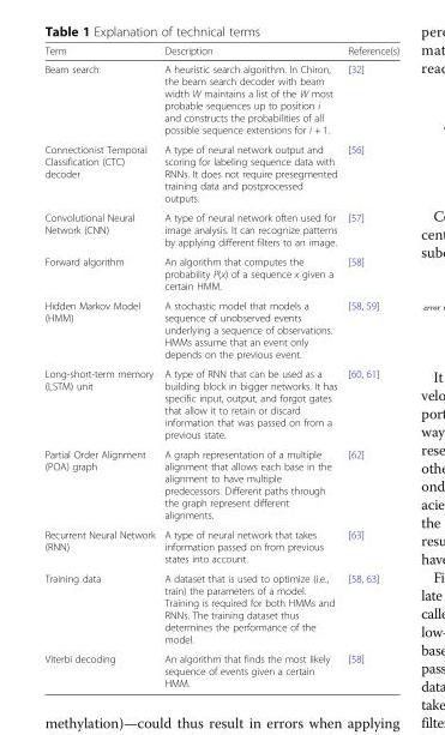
<table><thead><tr><td>Term</td><td>Description</td><td>Reference(s)</td></tr></thead><tbody><tr><td>Beam search</td><td>A heuristic search algorithm. In Chiron, the beam search decoder with beam width W maintains a list of the W most probable sequences up to position i and constructs the probabilities of all possible sequence extensions for i + 1.</td><td>[32]</td></tr><tr><td>Connectionist Temporal Classification (CTC) decoder</td><td>A type of neural network output and scoring for labeling sequence data with RNNs. It does not require presegmented training data and postprocessed outputs.</td><td>[56]</td></tr><tr><td>Convolutional Neural Network (CNN)</td><td>A type of neural network often used for image analysis. It can recognize patterns by applying different filters to an image.</td><td>[57]</td></tr><tr><td>Forward algorithm</td><td>An algorithm that computes the probability P(x) of a sequence x given a certain HMM.</td><td>[58]</td></tr><tr><td>Hidden Markov Model (HMM)</td><td>A stochastic model that models a sequence of unobserved events underlying a sequence of observations. HMMs assume that an event only depends on the previous event.</td><td>[58, 59]</td></tr><tr><td>Long-short-term memory (LSTM) unit</td><td>A type of RNN that can be used as a building block in bigger networks. It has specific input, output, and forgot gates that allow it to retain or discard information that was passed on from a previous state.</td><td>[60, 61]</td></tr><tr><td>Partial Order Alignment (POA) graph</td><td>A graph representation of a multiple alignment that allows each base in the alignment to have multiple predecessors. Different paths through the graph represent different alignments.</td><td>[62]</td></tr><tr><td>Recurrent Neural Network (RNN)</td><td>A type of neural network that takes information passed on from previous states into account.</td><td>[63]</td></tr><tr><td>Training data</td><td>A dataset that is used to optimize (i.e., train) the parameters of a model. Training is required for both HMMs and RNNs. The training dataset thus determines the performance of the model.</td><td>[58, 63]</td></tr><tr><td>Viterbi decoding</td><td>An algorithm that finds the most likely sequence of events given a certain HMM.</td><td>[58]</td></tr></tbody></table>